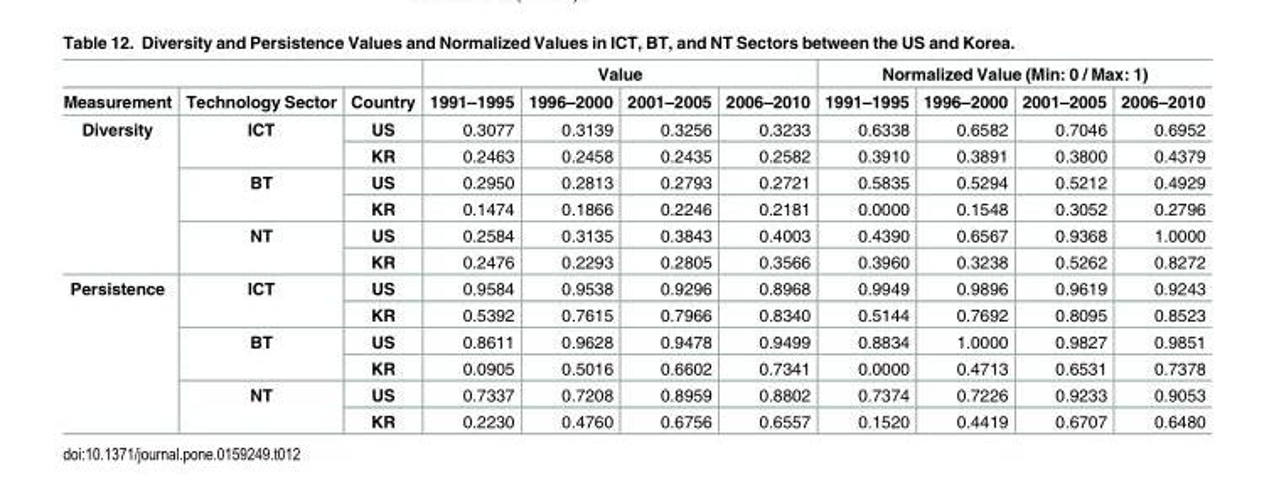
<table><thead><tr><td rowspan="2">Measurement</td><td rowspan="2">Technology Sector</td><td rowspan="2">Country</td><td colspan="4">Value</td><td colspan="4">Normalized Value (Min: 0 / Max: 1)</td></tr><tr><td>1991–1995</td><td>1996–2000</td><td>2001–2005</td><td>2006–2010</td><td>1991–1995</td><td>1996–2000</td><td>2001–2005</td><td>2006–2010</td></tr></thead><tbody><tr><td rowspan="6">Diversity</td><td rowspan="2">ICT</td><td>US</td><td>0.3077</td><td>0.3139</td><td>0.3256</td><td>0.3233</td><td>0.6338</td><td>0.6582</td><td>0.7046</td><td>0.6952</td></tr><tr><td>KR</td><td>0.2463</td><td>0.2458</td><td>0.2435</td><td>0.2582</td><td>0.3910</td><td>0.3891</td><td>0.3800</td><td>0.4379</td></tr><tr><td rowspan="2">BT</td><td>US</td><td>0.2950</td><td>0.2813</td><td>0.2793</td><td>0.2721</td><td>0.5835</td><td>0.5294</td><td>0.5212</td><td>0.4929</td></tr><tr><td>KR</td><td>0.1474</td><td>0.1866</td><td>0.2246</td><td>0.2181</td><td>0.0000</td><td>0.1548</td><td>0.3052</td><td>0.2796</td></tr><tr><td rowspan="2">NT</td><td>US</td><td>0.2584</td><td>0.3135</td><td>0.3843</td><td>0.4003</td><td>0.4390</td><td>0.6567</td><td>0.9368</td><td>1.0000</td></tr><tr><td>KR</td><td>0.2476</td><td>0.2293</td><td>0.2805</td><td>0.3566</td><td>0.3960</td><td>0.3238</td><td>0.5262</td><td>0.8272</td></tr><tr><td rowspan="6">Persistence</td><td rowspan="2">ICT</td><td>US</td><td>0.9584</td><td>0.9538</td><td>0.9296</td><td>0.8968</td><td>0.9949</td><td>0.9896</td><td>0.9619</td><td>0.9243</td></tr><tr><td>KR</td><td>0.5392</td><td>0.7615</td><td>0.7966</td><td>0.8340</td><td>0.5144</td><td>0.7692</td><td>0.8095</td><td>0.8523</td></tr><tr><td rowspan="2">BT</td><td>US</td><td>0.8611</td><td>0.9628</td><td>0.9478</td><td>0.9499</td><td>0.8834</td><td>1.0000</td><td>0.9827</td><td>0.9851</td></tr><tr><td>KR</td><td>0.0905</td><td>0.5016</td><td>0.6602</td><td>0.7341</td><td>0.0000</td><td>0.4713</td><td>0.6531</td><td>0.7378</td></tr><tr><td rowspan="2">NT</td><td>US</td><td>0.7337</td><td>0.7208</td><td>0.8959</td><td>0.8802</td><td>0.7374</td><td>0.7226</td><td>0.9233</td><td>0.9053</td></tr><tr><td>KR</td><td>0.2230</td><td>0.4760</td><td>0.6756</td><td>0.6557</td><td>0.1520</td><td>0.4419</td><td>0.6707</td><td>0.6480</td></tr></tbody></table>